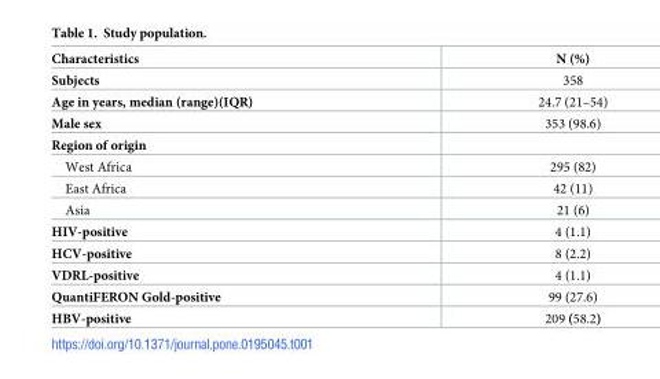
<table><thead><tr><td>Characteristics</td><td>N (%)</td></tr></thead><tbody><tr><td>Subjects</td><td>358</td></tr><tr><td>Age in years, median (range)(IQR)</td><td>24.7 (21–54)</td></tr><tr><td>Male sex</td><td>353 (98.6)</td></tr><tr><td colspan="2">Region of origin</td></tr><tr><td>West Africa</td><td>295 (82)</td></tr><tr><td>East Africa</td><td>42 (11)</td></tr><tr><td>Asia</td><td>21 (6)</td></tr><tr><td>HIV-positive</td><td>4 (1.1)</td></tr><tr><td>HCV-positive</td><td>8 (2.2)</td></tr><tr><td>VDRL-positive</td><td>4 (1.1)</td></tr><tr><td>QuantiFERON Gold-positive</td><td>99 (27.6)</td></tr><tr><td>HBV-positive</td><td>209 (58.2)</td></tr></tbody></table>